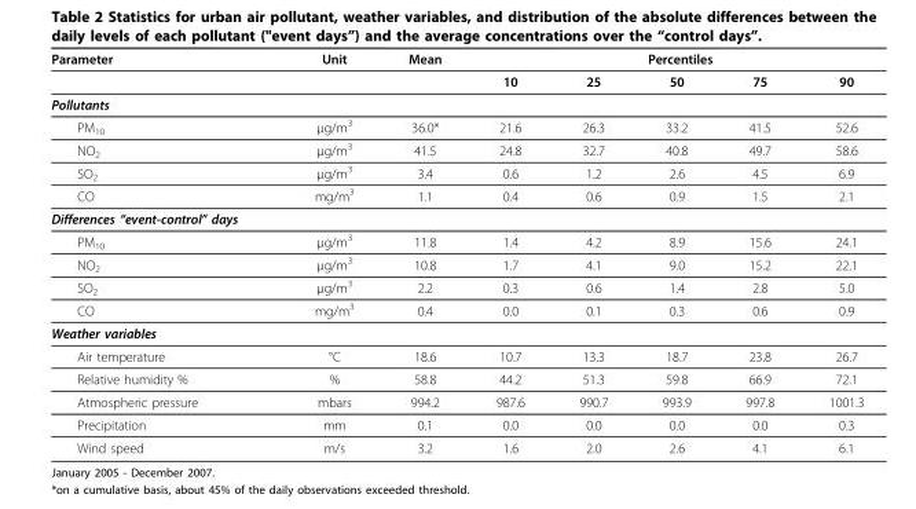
<table><thead><tr><td rowspan="2">Parameter</td><td rowspan="2">Unit</td><td rowspan="2">Mean</td><td colspan="5">Percentiles</td></tr><tr><td>10</td><td>25</td><td>50</td><td>75</td><td>90</td></tr></thead><tbody><tr><td colspan="8">Pollutants</td></tr><tr><td>PM10</td><td>μg/m3</td><td>36.0*</td><td>21.6</td><td>26.3</td><td>33.2</td><td>41.5</td><td>52.6</td></tr><tr><td>NO2</td><td>μg/m3</td><td>41.5</td><td>24.8</td><td>32.7</td><td>40.8</td><td>49.7</td><td>58.6</td></tr><tr><td>SO2</td><td>μg/m3</td><td>3.4</td><td>0.6</td><td>1.2</td><td>2.6</td><td>4.5</td><td>6.9</td></tr><tr><td>CO</td><td>mg/m3</td><td>1.1</td><td>0.4</td><td>0.6</td><td>0.9</td><td>1.5</td><td>2.1</td></tr><tr><td colspan="8">Differences “event-control” days</td></tr><tr><td>PM10</td><td>μg/m3</td><td>11.8</td><td>1.4</td><td>4.2</td><td>8.9</td><td>15.6</td><td>24.1</td></tr><tr><td>NO2</td><td>μg/m3</td><td>10.8</td><td>1.7</td><td>4.1</td><td>9.0</td><td>15.2</td><td>22.1</td></tr><tr><td>SO2</td><td>μg/m3</td><td>2.2</td><td>0.3</td><td>0.6</td><td>1.4</td><td>2.8</td><td>5.0</td></tr><tr><td>CO</td><td>mg/m3</td><td>0.4</td><td>0.0</td><td>0.1</td><td>0.3</td><td>0.6</td><td>0.9</td></tr><tr><td colspan="8">Weather variables</td></tr><tr><td>Air temperature</td><td>°C</td><td>18.6</td><td>10.7</td><td>13.3</td><td>18.7</td><td>23.8</td><td>26.7</td></tr><tr><td>Relative humidity %</td><td>%</td><td>58.8</td><td>44.2</td><td>51.3</td><td>59.8</td><td>66.9</td><td>72.1</td></tr><tr><td>Atmospheric pressure</td><td>mbars</td><td>994.2</td><td>987.6</td><td>990.7</td><td>993.9</td><td>997.8</td><td>1001.3</td></tr><tr><td>Precipitation</td><td>mm</td><td>0.1</td><td>0.0</td><td>0.0</td><td>0.0</td><td>0.0</td><td>0.3</td></tr><tr><td>Wind speed</td><td>m/s</td><td>3.2</td><td>1.6</td><td>2.0</td><td>2.6</td><td>4.1</td><td>6.1</td></tr></tbody></table>